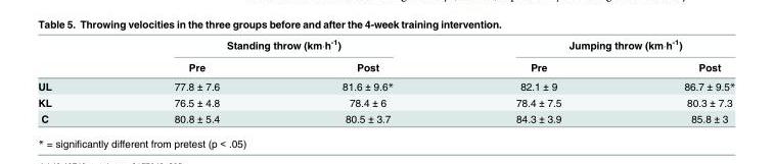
<table><thead><tr><td rowspan="2"></td><td colspan="2">Standing throw (km·h<sup>-1</sup>)</td><td colspan="2">Jumping throw (km·h<sup>-1</sup>)</td></tr><tr><td>Pre</td><td>Post</td><td>Pre</td><td>Post</td></tr></thead><tbody><tr><td>UL</td><td>77.8 ± 7.6</td><td>81.6 ± 9.6*</td><td>82.1 ± 9</td><td>86.7 ± 9.5*</td></tr><tr><td>KL</td><td>76.5 ± 4.8</td><td>78.4 ± 6</td><td>78.4 ± 7.5</td><td>80.3 ± 7.3</td></tr><tr><td>C</td><td>80.8 ± 5.4</td><td>80.5 ± 3.7</td><td>84.3 ± 3.9</td><td>85.8 ± 3</td></tr></tbody></table>